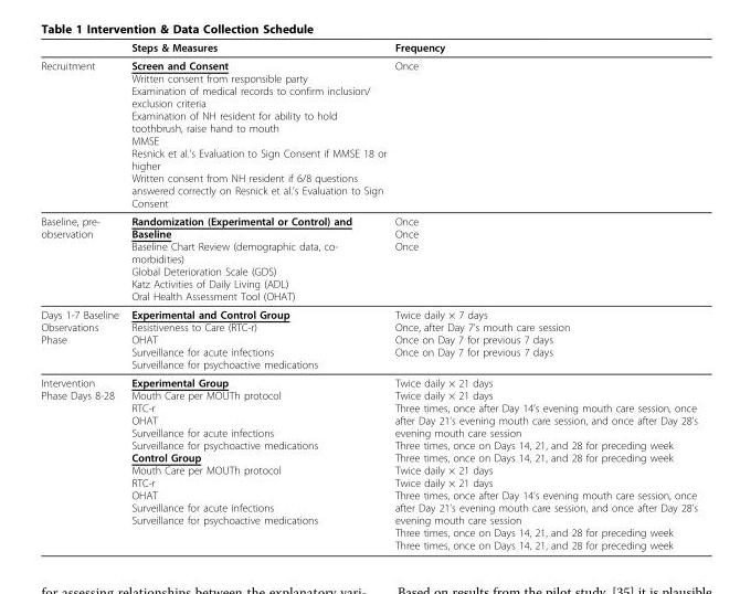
<table><thead><tr><td></td><td>Steps &amp; Measures</td><td>Frequency</td></tr></thead><tbody><tr><td>Recruitment</td><td>Screen and Consent Written consent from responsible party Examination of medical records to confirm inclusion/ exclusion criteria Examination of NH resident for ability to hold toothbrush, raise hand to mouth MMSE Resnick et al.’s Evaluation to Sign Consent if MMSE 18 or higher Written consent from NH resident if 6/8 questions answered correctly on Resnick et al.’s Evaluation to Sign Consent</td><td>Once</td></tr><tr><td>Baseline, pre- observation</td><td>Randomization (Experimental or Control) and Baseline Baseline Chart Review (demographic data, co- morbidities) Global Deterioration Scale (GDS) Katz Activities of Daily Living (ADL) Oral Health Assessment Tool (OHAT)</td><td>Once Once Once</td></tr><tr><td>Days 1-7 Baseline Observations Phase</td><td>Experimental and Control Group Resistiveness to Care (RTC-r) OHAT Surveillance for acute infections Surveillance for psychoactive medications</td><td>Twice daily × 7 days Once, after Day 7’s mouth care session Once on Day 7 for previous 7 days Once on Day 7 for previous 7 days</td></tr><tr><td>Intervention Phase Days 8-28</td><td>Experimental Group Mouth Care per MOUTh protocol RTC-r OHAT Surveillance for acute infections Surveillance for psychoactive medications Control Group Mouth Care per MOUTh protocol RTC-r OHAT Surveillance for acute infections Surveillance for psychoactive medications</td><td>Twice daily × 21 days Twice daily × 21 days Three times, once after Day 14’s evening mouth care session, once after Day 21’s evening mouth care session, and once after Day 28’s evening mouth care session Three times, once on Days 14, 21, and 28 for preceding week Three times, once on Days 14, 21, and 28 for preceding week Twice daily × 21 days Twice daily × 21 days Three times, once after Day 14’s evening mouth care session, once after Day 21’s evening mouth care session, and once after Day 28’s evening mouth care session Three times, once on Days 14, 21, and 28 for preceding week Three times, once on Days 14, 21, and 28 for preceding week</td></tr></tbody></table>